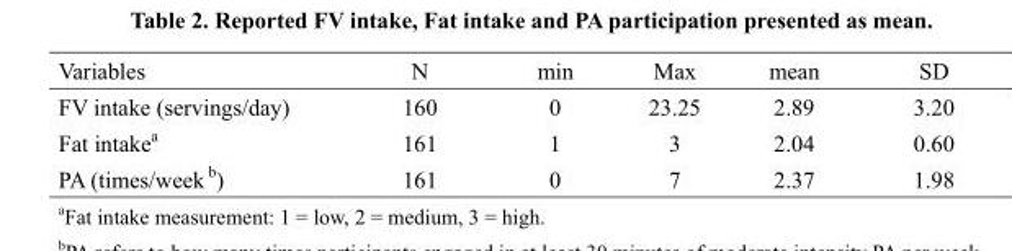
<table><thead><tr><td>Variables</td><td>N</td><td>min</td><td>Max</td><td>mean</td><td>SD</td></tr></thead><tbody><tr><td>FV intake (servings/day)</td><td>160</td><td>0</td><td>23.25</td><td>2.89</td><td>3.20</td></tr><tr><td>Fat intake<sup>a</sup></td><td>161</td><td>1</td><td>3</td><td>2.04</td><td>0.60</td></tr><tr><td>PA (times/week <sup>b</sup>)</td><td>161</td><td>0</td><td>7</td><td>2.37</td><td>1.98</td></tr></tbody></table>